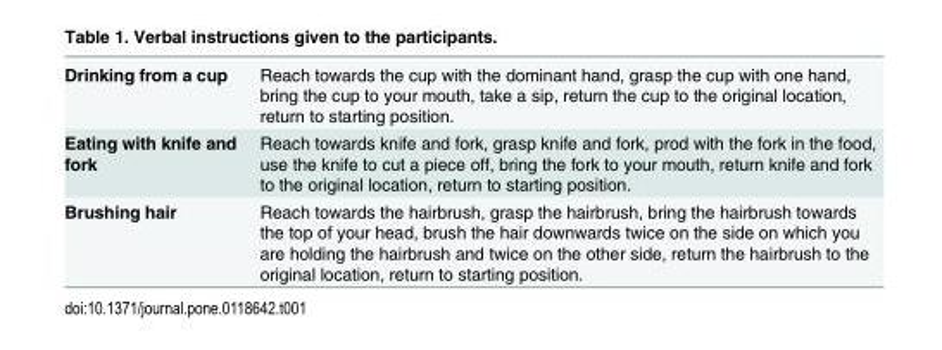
<table><tbody><tr><td>Drinking from a cup</td><td>Reach towards the cup with the dominant hand, grasp the cup with one hand, bring the cup to your mouth, take a sip, return the cup to the original location, return to starting position.</td></tr><tr><td>Eating with knife and fork</td><td>Reach towards knife and fork, grasp knife and fork, prod with the fork in the food, use the knife to cut a piece off, bring the fork to your mouth, return knife and fork to the original location, return to starting position.</td></tr><tr><td>Brushing hair</td><td>Reach towards the hairbrush, grasp the hairbrush, bring the hairbrush towards the top of your head, brush the hair downwards twice on the side on which you are holding the hairbrush and twice on the other side, return the hairbrush to the original location, return to starting position.</td></tr></tbody></table>